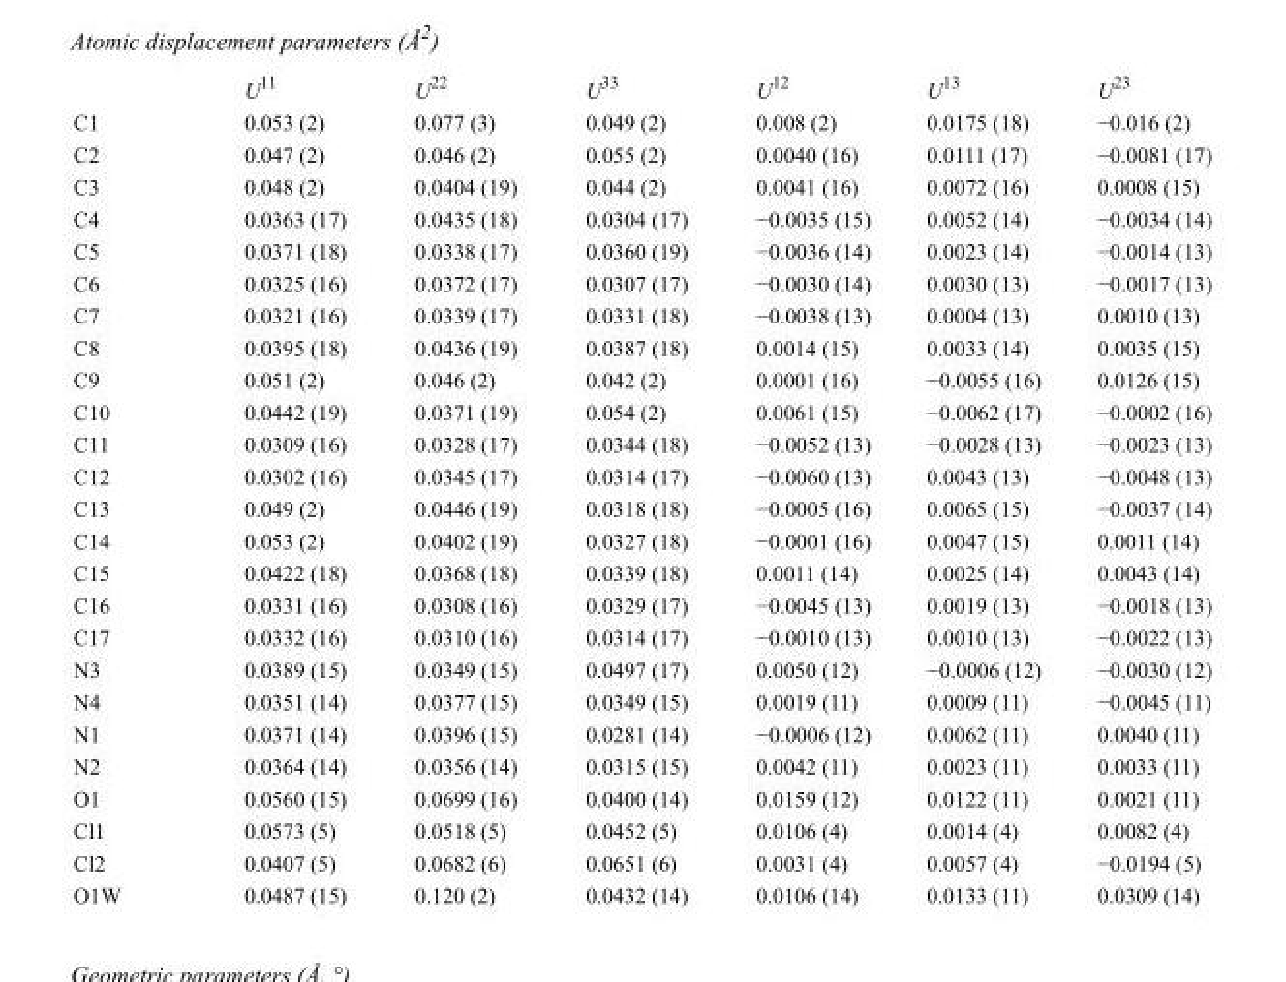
<table><thead><tr><td></td><td>U<sup>11</sup></td><td>U<sup>22</sup></td><td>U<sup>33</sup></td><td>U<sup>12</sup></td><td>U<sup>13</sup></td><td>U<sup>23</sup></td></tr></thead><tbody><tr><td>C1</td><td>0.053 (2)</td><td>0.077 (3)</td><td>0.049 (2)</td><td>0.008 (2)</td><td>0.0175 (18)</td><td>−0.016 (2)</td></tr><tr><td>C2</td><td>0.047 (2)</td><td>0.046 (2)</td><td>0.055 (2)</td><td>0.0040 (16)</td><td>0.0111 (17)</td><td>−0.0081 (17)</td></tr><tr><td>C3</td><td>0.048 (2)</td><td>0.0404 (19)</td><td>0.044 (2)</td><td>0.0041 (16)</td><td>0.0072 (16)</td><td>0.0008 (15)</td></tr><tr><td>C4</td><td>0.0363 (17)</td><td>0.0435 (18)</td><td>0.0304 (17)</td><td>−0.0035 (15)</td><td>0.0052 (14)</td><td>−0.0034 (14)</td></tr><tr><td>C5</td><td>0.0371 (18)</td><td>0.0338 (17)</td><td>0.0360 (19)</td><td>−0.0036 (14)</td><td>0.0023 (14)</td><td>−0.0014 (13)</td></tr><tr><td>C6</td><td>0.0325 (16)</td><td>0.0372 (17)</td><td>0.0307 (17)</td><td>−0.0030 (14)</td><td>0.0030 (13)</td><td>−0.0017 (13)</td></tr><tr><td>C7</td><td>0.0321 (16)</td><td>0.0339 (17)</td><td>0.0331 (18)</td><td>−0.0038 (13)</td><td>0.0004 (13)</td><td>0.0010 (13)</td></tr><tr><td>C8</td><td>0.0395 (18)</td><td>0.0436 (19)</td><td>0.0387 (18)</td><td>0.0014 (15)</td><td>0.0033 (14)</td><td>0.0035 (15)</td></tr><tr><td>C9</td><td>0.051 (2)</td><td>0.046 (2)</td><td>0.042 (2)</td><td>0.0001 (16)</td><td>−0.0055 (16)</td><td>0.0126 (15)</td></tr><tr><td>C10</td><td>0.0442 (19)</td><td>0.0371 (19)</td><td>0.054 (2)</td><td>0.0061 (15)</td><td>−0.0062 (17)</td><td>−0.0002 (16)</td></tr><tr><td>C11</td><td>0.0309 (16)</td><td>0.0328 (17)</td><td>0.0344 (18)</td><td>−0.0052 (13)</td><td>−0.0028 (13)</td><td>−0.0023 (13)</td></tr><tr><td>C12</td><td>0.0302 (16)</td><td>0.0345 (17)</td><td>0.0314 (17)</td><td>−0.0060 (13)</td><td>0.0043 (13)</td><td>−0.0048 (13)</td></tr><tr><td>C13</td><td>0.049 (2)</td><td>0.0446 (19)</td><td>0.0318 (18)</td><td>−0.0005 (16)</td><td>0.0065 (15)</td><td>−0.0037 (14)</td></tr><tr><td>C14</td><td>0.053 (2)</td><td>0.0402 (19)</td><td>0.0327 (18)</td><td>−0.0001 (16)</td><td>0.0047 (15)</td><td>0.0011 (14)</td></tr><tr><td>C15</td><td>0.0422 (18)</td><td>0.0368 (18)</td><td>0.0339 (18)</td><td>0.0011 (14)</td><td>0.0025 (14)</td><td>0.0043 (14)</td></tr><tr><td>C16</td><td>0.0331 (16)</td><td>0.0308 (16)</td><td>0.0329 (17)</td><td>−0.0045 (13)</td><td>0.0019 (13)</td><td>−0.0018 (13)</td></tr><tr><td>C17</td><td>0.0332 (16)</td><td>0.0310 (16)</td><td>0.0314 (17)</td><td>−0.0010 (13)</td><td>0.0010 (13)</td><td>−0.0022 (13)</td></tr><tr><td>N3</td><td>0.0389 (15)</td><td>0.0349 (15)</td><td>0.0497 (17)</td><td>0.0050 (12)</td><td>−0.0006 (12)</td><td>−0.0030 (12)</td></tr><tr><td>N4</td><td>0.0351 (14)</td><td>0.0377 (15)</td><td>0.0349 (15)</td><td>0.0019 (11)</td><td>0.0009 (11)</td><td>−0.0045 (11)</td></tr><tr><td>N1</td><td>0.0371 (14)</td><td>0.0396 (15)</td><td>0.0281 (14)</td><td>−0.0006 (12)</td><td>0.0062 (11)</td><td>0.0040 (11)</td></tr><tr><td>N2</td><td>0.0364 (14)</td><td>0.0356 (14)</td><td>0.0315 (15)</td><td>0.0042 (11)</td><td>0.0023 (11)</td><td>0.0033 (11)</td></tr><tr><td>O1</td><td>0.0560 (15)</td><td>0.0699 (16)</td><td>0.0400 (14)</td><td>0.0159 (12)</td><td>0.0122 (11)</td><td>0.0021 (11)</td></tr><tr><td>Cl1</td><td>0.0573 (5)</td><td>0.0518 (5)</td><td>0.0452 (5)</td><td>0.0106 (4)</td><td>0.0014 (4)</td><td>0.0082 (4)</td></tr><tr><td>Cl2</td><td>0.0407 (5)</td><td>0.0682 (6)</td><td>0.0651 (6)</td><td>0.0031 (4)</td><td>0.0057 (4)</td><td>−0.0194 (5)</td></tr><tr><td>O1W</td><td>0.0487 (15)</td><td>0.120 (2)</td><td>0.0432 (14)</td><td>0.0106 (14)</td><td>0.0133 (11)</td><td>0.0309 (14)</td></tr></tbody></table>